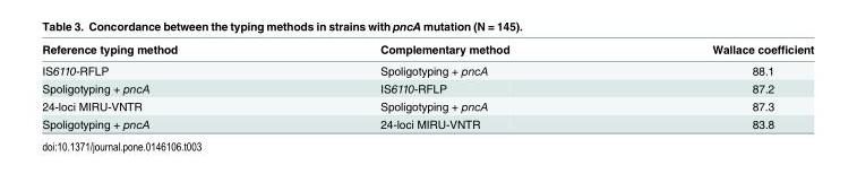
<table><thead><tr><td>Reference typing method</td><td>Complementary method</td><td>Wallace coefficient</td></tr></thead><tbody><tr><td>IS6110-RFLP</td><td>Spoligotyping + pncA</td><td>88.1</td></tr><tr><td>Spoligotyping + pncA</td><td>IS6110-RFLP</td><td>87.2</td></tr><tr><td>24-loci MIRU-VNTR</td><td>Spoligotyping + pncA</td><td>87.3</td></tr><tr><td>Spoligotyping + pncA</td><td>24-loci MIRU-VNTR</td><td>83.8</td></tr></tbody></table>